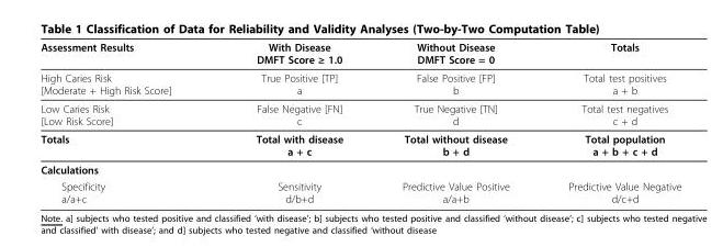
<table><thead><tr><td>Assessment Results</td><td>With Disease DMFT Score ≥ 1.0</td><td>Without Disease DMFT Score = 0</td><td>Totals</td></tr></thead><tbody><tr><td>High Caries Risk [Moderate + High Risk Score]</td><td>True Positive [TP] a</td><td>False Positive [FP] b</td><td>Total test positives a + b</td></tr><tr><td>Low Caries Risk [Low Risk Score]</td><td>False Negative [FN] c</td><td>True Negative [TN] d</td><td>Total test negatives c + d</td></tr><tr><td>Totals</td><td>Total with disease a + c</td><td>Total without disease b + d</td><td>Total population a + b + c + d</td></tr><tr><td colspan="4">Calculations</td></tr><tr><td>Specificity a/a+c</td><td>Sensitivity d/b+d</td><td>Predictive Value Positive a/a+b</td><td>Predictive Value Negative d/c+d</td></tr></tbody></table>